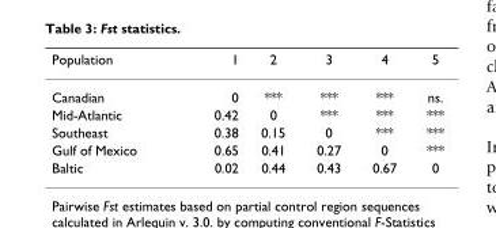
<table><thead><tr><td>Population</td><td>1</td><td>2</td><td>3</td><td>4</td><td>5</td></tr></thead><tbody><tr><td>Canadian</td><td>0</td><td>***</td><td>***</td><td>***</td><td>ns.</td></tr><tr><td>Mid-Atlantic</td><td>0.42</td><td>0</td><td>***</td><td>***</td><td>***</td></tr><tr><td>Southeast</td><td>0.38</td><td>0.15</td><td>0</td><td>***</td><td>***</td></tr><tr><td>Gulf of Mexico</td><td>0.65</td><td>0.41</td><td>0.27</td><td>0</td><td>***</td></tr><tr><td>Baltic</td><td>0.02</td><td>0.44</td><td>0.43</td><td>0.67</td><td>0</td></tr></tbody></table>